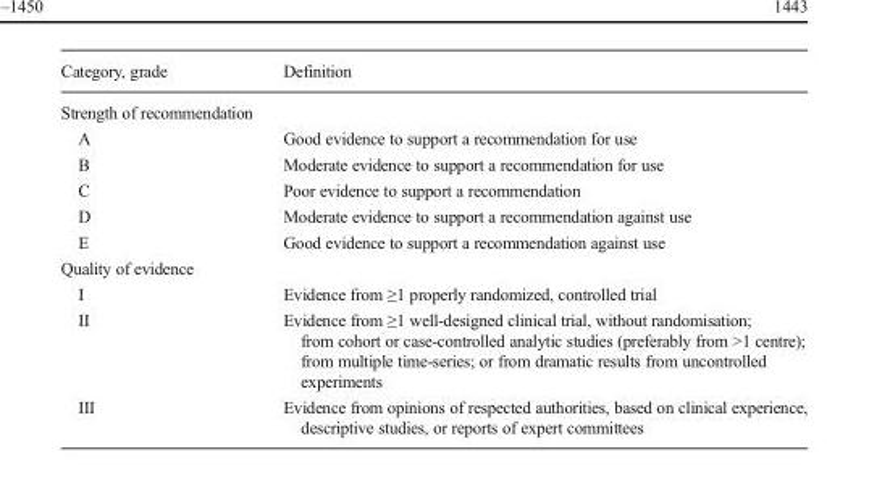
<table><thead><tr><td>Category, grade</td><td>Definition</td></tr></thead><tbody><tr><td colspan="2">Strength of recommendation</td></tr><tr><td>A</td><td>Good evidence to support a recommendation for use</td></tr><tr><td>B</td><td>Moderate evidence to support a recommendation for use</td></tr><tr><td>C</td><td>Poor evidence to support a recommendation</td></tr><tr><td>D</td><td>Moderate evidence to support a recommendation against use</td></tr><tr><td>E</td><td>Good evidence to support a recommendation against use</td></tr><tr><td colspan="2">Quality of evidence</td></tr><tr><td>I</td><td>Evidence from ≥1 properly randomized, controlled trial</td></tr><tr><td>II</td><td>Evidence from ≥1 well-designed clinical trial, without randomisation; from cohort or case-controlled analytic studies (preferably from &gt;1 centre); from multiple time-series; or from dramatic results from uncontrolled experiments</td></tr><tr><td>III</td><td>Evidence from opinions of respected authorities, based on clinical experience, descriptive studies, or reports of expert committees</td></tr></tbody></table>